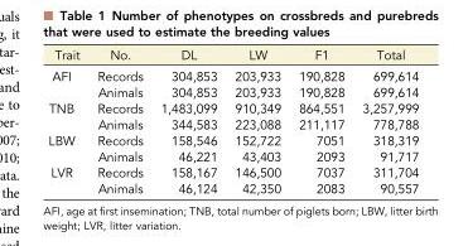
<table><thead><tr><td>Trait</td><td>No.</td><td>DL</td><td>LW</td><td>F1</td><td>Total</td></tr></thead><tbody><tr><td rowspan="2">AFI</td><td>Records</td><td>304,853</td><td>203,933</td><td>190,828</td><td>699,614</td></tr><tr><td>Animals</td><td>304,853</td><td>203,933</td><td>190,828</td><td>699,614</td></tr><tr><td rowspan="2">TNB</td><td>Records</td><td>1,483,099</td><td>910,349</td><td>864,551</td><td>3,257,999</td></tr><tr><td>Animals</td><td>344,583</td><td>223,088</td><td>211,117</td><td>778,788</td></tr><tr><td rowspan="2">LBW</td><td>Records</td><td>158,546</td><td>152,722</td><td>7051</td><td>318,319</td></tr><tr><td>Animals</td><td>46,221</td><td>43,403</td><td>2093</td><td>91,717</td></tr><tr><td rowspan="2">LVR</td><td>Records</td><td>158,167</td><td>146,500</td><td>7037</td><td>311,704</td></tr><tr><td>Animals</td><td>46,124</td><td>42,350</td><td>2083</td><td>90,557</td></tr></tbody></table>